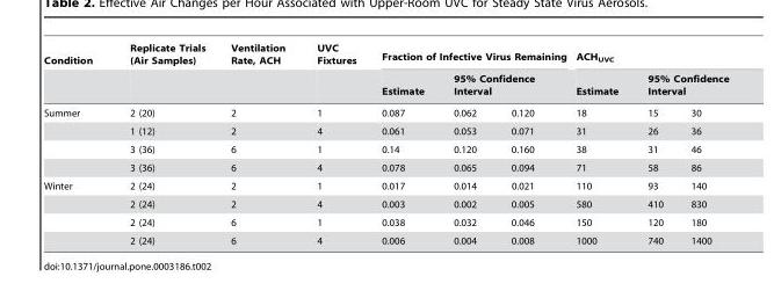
<table><thead><tr><td rowspan="3">Condition Summer</td><td rowspan="3">Replicate Trials (Air Samples) 2 (20)</td><td rowspan="3">Ventilation Rate, ACH 2</td><td rowspan="3">UVC Fixtures 1</td><td colspan="3">Fraction of Infective Virus Remaining</td><td colspan="3">ACH<sub>UVC</sub></td></tr><tr><td rowspan="2">Estimate 0.087</td><td colspan="2">95% Confidence Interval</td><td rowspan="2">Estimate 18</td><td colspan="2">95% Confidence Interval</td></tr><tr><td>0.062</td><td>0.120</td><td>15</td><td>30</td></tr></thead><tbody><tr><td></td><td>1 (12)</td><td>2</td><td>4</td><td>0.061</td><td>0.053</td><td>0.071</td><td>31</td><td>26</td><td>36</td></tr><tr><td></td><td>3 (36)</td><td>6</td><td>1</td><td>0.14</td><td>0.120</td><td>0.160</td><td>38</td><td>31</td><td>46</td></tr><tr><td></td><td>3 (36)</td><td>6</td><td>4</td><td>0.078</td><td>0.065</td><td>0.094</td><td>71</td><td>58</td><td>86</td></tr><tr><td rowspan="4">Winter</td><td>2 (24)</td><td>2</td><td>1</td><td>0.017</td><td>0.014</td><td>0.021</td><td>110</td><td>93</td><td>140</td></tr><tr><td>2 (24)</td><td>2</td><td>4</td><td>0.003</td><td>0.002</td><td>0.005</td><td>580</td><td>410</td><td>830</td></tr><tr><td>2 (24)</td><td>6</td><td>1</td><td>0.038</td><td>0.032</td><td>0.046</td><td>150</td><td>120</td><td>180</td></tr><tr><td>2 (24)</td><td>6</td><td>4</td><td>0.006</td><td>0.004</td><td>0.008</td><td>1000</td><td>740</td><td>1400</td></tr></tbody></table>